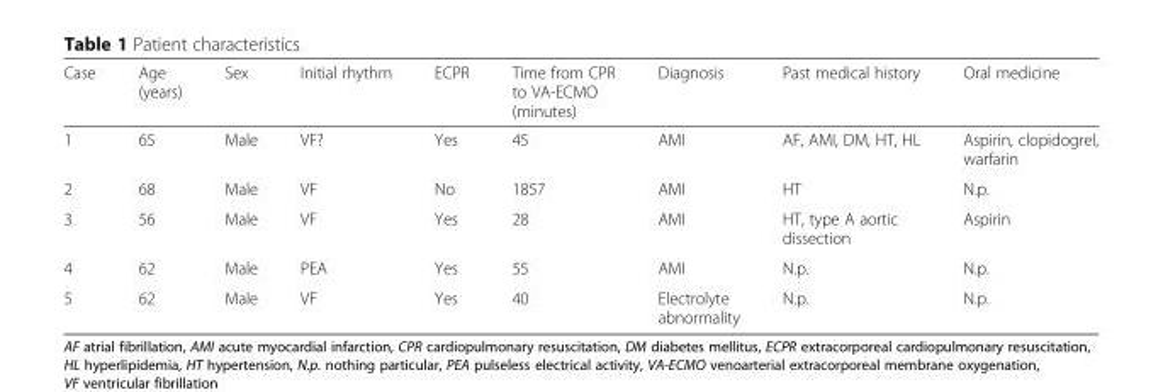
<table><thead><tr><td>Case</td><td>Age (years)</td><td>Sex</td><td>Initial rhythm</td><td>ECPR</td><td>Time from CPR to VA-ECMO (minutes)</td><td>Diagnosis</td><td>Past medical history</td><td>Oral medicine</td></tr></thead><tbody><tr><td>1</td><td>65</td><td>Male</td><td>VF?</td><td>Yes</td><td>45</td><td>AMI</td><td>AF, AMI, DM, HT, HL</td><td>Aspirin, clopidogrel, warfarin</td></tr><tr><td>2</td><td>68</td><td>Male</td><td>VF</td><td>No</td><td>1857</td><td>AMI</td><td>HT</td><td>N.p.</td></tr><tr><td>3</td><td>56</td><td>Male</td><td>VF</td><td>Yes</td><td>28</td><td>AMI</td><td>HT, type A aortic dissection</td><td>Aspirin</td></tr><tr><td>4</td><td>62</td><td>Male</td><td>PEA</td><td>Yes</td><td>55</td><td>AMI</td><td>N.p.</td><td>N.p.</td></tr><tr><td>5</td><td>62</td><td>Male</td><td>VF</td><td>Yes</td><td>40</td><td>Electrolyte abnormality</td><td>N.p.</td><td>N.p.</td></tr></tbody></table>